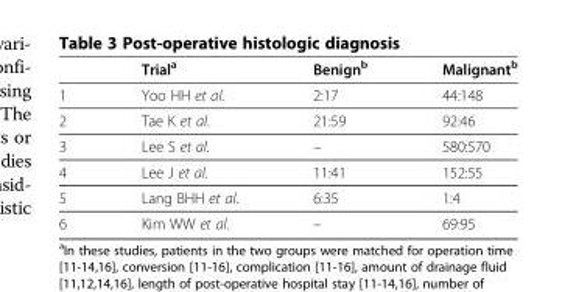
<table><thead><tr><td></td><td>Trial<sup>a</sup></td><td>Benign<sup>b</sup></td><td>Malignant<sup>b</sup></td></tr></thead><tbody><tr><td>1</td><td>Yoo HH et al.</td><td>2:17</td><td>44:148</td></tr><tr><td>2</td><td>Tae K et al.</td><td>21:59</td><td>92:46</td></tr><tr><td>3</td><td>Lee S et al.</td><td>–</td><td>580:570</td></tr><tr><td>4</td><td>Lee J et al.</td><td>11:41</td><td>152:55</td></tr><tr><td>5</td><td>Lang BHH et al.</td><td>6:35</td><td>1:4</td></tr><tr><td>6</td><td>Kim WW et al.</td><td>–</td><td>69:95</td></tr></tbody></table>